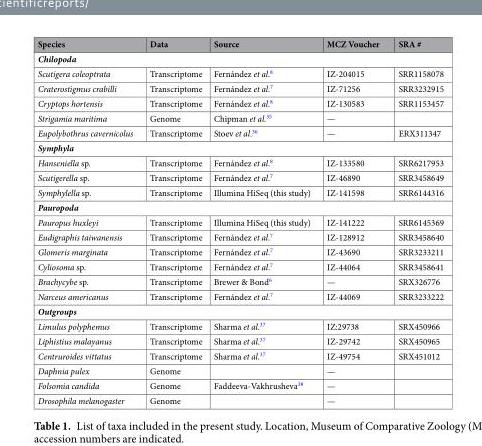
<table><thead><tr><td>Species</td><td>Data</td><td>Source</td><td>MCZ Voucher</td><td>SRA #</td></tr></thead><tbody><tr><td colspan="5">Chilopoda</td></tr><tr><td>Scutigera coleoptrata</td><td>Transcriptome</td><td>Fernández et al.<sup>8</sup></td><td>IZ-204015</td><td>SRR1158078</td></tr><tr><td>Craterostigmus crabilli</td><td>Transcriptome</td><td>Fernández et al.<sup>7</sup></td><td>IZ-71256</td><td>SRR3232915</td></tr><tr><td>Cryptops hortensis</td><td>Transcriptome</td><td>Fernández et al.<sup>8</sup></td><td>IZ-130583</td><td>SRR1153457</td></tr><tr><td>Strigamia maritima</td><td>Genome</td><td>Chipman et al.<sup>35</sup></td><td>—</td><td></td></tr><tr><td>Eupolybothrus cavernicolus</td><td>Transcriptome</td><td>Stoev et al.<sup>36</sup></td><td>—</td><td>ERX311347</td></tr><tr><td colspan="5">Symphyla</td></tr><tr><td>Hanseniella sp.</td><td>Transcriptome</td><td>Fernández et al.<sup>8</sup></td><td>IZ-133580</td><td>SRR6217953</td></tr><tr><td>Scutigerella sp.</td><td>Transcriptome</td><td>Fernández et al.<sup>7</sup></td><td>IZ-46890</td><td>SRR3458649</td></tr><tr><td>Symphylella sp.</td><td>Transcriptome</td><td>Illumina HiSeq (this study)</td><td>IZ-141598</td><td>SRR6144316</td></tr><tr><td colspan="5">Pauropoda</td></tr><tr><td>Pauropus huxleyi</td><td>Transcriptome</td><td>Illumina HiSeq (this study)</td><td>IZ-141222</td><td>SRR6145369</td></tr><tr><td>Eudigraphis taiwanensis</td><td>Transcriptome</td><td>Fernández et al.<sup>7</sup></td><td>IZ-128912</td><td>SRR3458640</td></tr><tr><td>Glomeris marginata</td><td>Transcriptome</td><td>Fernández et al.<sup>7</sup></td><td>IZ-43690</td><td>SRR3233211</td></tr><tr><td>Cyliosoma sp.</td><td>Transcriptome</td><td>Fernández et al.<sup>7</sup></td><td>IZ-44064</td><td>SRR3458641</td></tr><tr><td>Brachycybe sp.</td><td>Transcriptome</td><td>Brewer &amp; Bond<sup>6</sup></td><td>—</td><td>SRX326776</td></tr><tr><td>Narceus americanus</td><td>Transcriptome</td><td>Fernández et al.<sup>7</sup></td><td>IZ-44069</td><td>SRR3233222</td></tr><tr><td colspan="5">Outgroups</td></tr><tr><td>Limulus polyphemus</td><td>Transcriptome</td><td>Sharma et al.<sup>37</sup></td><td>IZ:29738</td><td>SRX450966</td></tr><tr><td>Liphistius malayanus</td><td>Transcriptome</td><td>Sharma et al.<sup>37</sup></td><td>IZ-29742</td><td>SRX450965</td></tr><tr><td>Centruroides vittatus</td><td>Transcriptome</td><td>Sharma et al.<sup>37</sup></td><td>IZ-49754</td><td>SRX451012</td></tr><tr><td>Daphnia pulex</td><td>Genome</td><td></td><td>—</td><td></td></tr><tr><td>Folsomia candida</td><td>Genome</td><td>Faddeeva-Vakhrusheva<sup>38</sup></td><td>—</td><td></td></tr><tr><td>Drosophila melanogaster</td><td>Genome</td><td></td><td>—</td><td></td></tr></tbody></table>